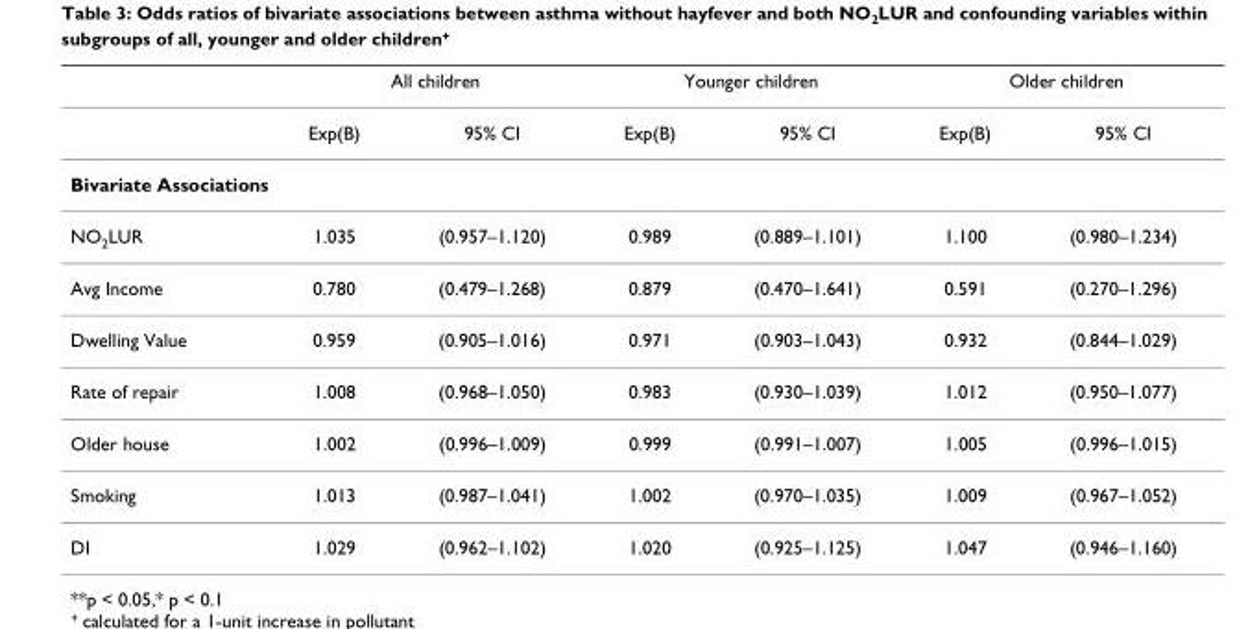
<table><thead><tr><td rowspan="2"></td><td colspan="2">All children</td><td colspan="2">Younger children</td><td colspan="2">Older children</td></tr><tr><td>Exp(B)</td><td>95% CI</td><td>Exp(B)</td><td>95% CI</td><td>Exp(B)</td><td>95% CI</td></tr></thead><tbody><tr><td colspan="7">Bivariate Associations</td></tr><tr><td>NO<sub>2</sub>LUR</td><td>1.035</td><td>(0.957–1.120)</td><td>0.989</td><td>(0.889–1.101)</td><td>1.100</td><td>(0.980–1.234)</td></tr><tr><td>Avg Income</td><td>0.780</td><td>(0.479–1.268)</td><td>0.879</td><td>(0.470–1.641)</td><td>0.591</td><td>(0.270–1.296)</td></tr><tr><td>Dwelling Value</td><td>0.959</td><td>(0.905–1.016)</td><td>0.971</td><td>(0.903–1.043)</td><td>0.932</td><td>(0.844–1.029)</td></tr><tr><td>Rate of repair</td><td>1.008</td><td>(0.968–1.050)</td><td>0.983</td><td>(0.930–1.039)</td><td>1.012</td><td>(0.950–1.077)</td></tr><tr><td>Older house</td><td>1.002</td><td>(0.996–1.009)</td><td>0.999</td><td>(0.991–1.007)</td><td>1.005</td><td>(0.996–1.015)</td></tr><tr><td>Smoking</td><td>1.013</td><td>(0.987–1.041)</td><td>1.002</td><td>(0.970–1.035)</td><td>1.009</td><td>(0.967–1.052)</td></tr><tr><td>DI</td><td>1.029</td><td>(0.962–1.102)</td><td>1.020</td><td>(0.925–1.125)</td><td>1.047</td><td>(0.946–1.160)</td></tr></tbody></table>